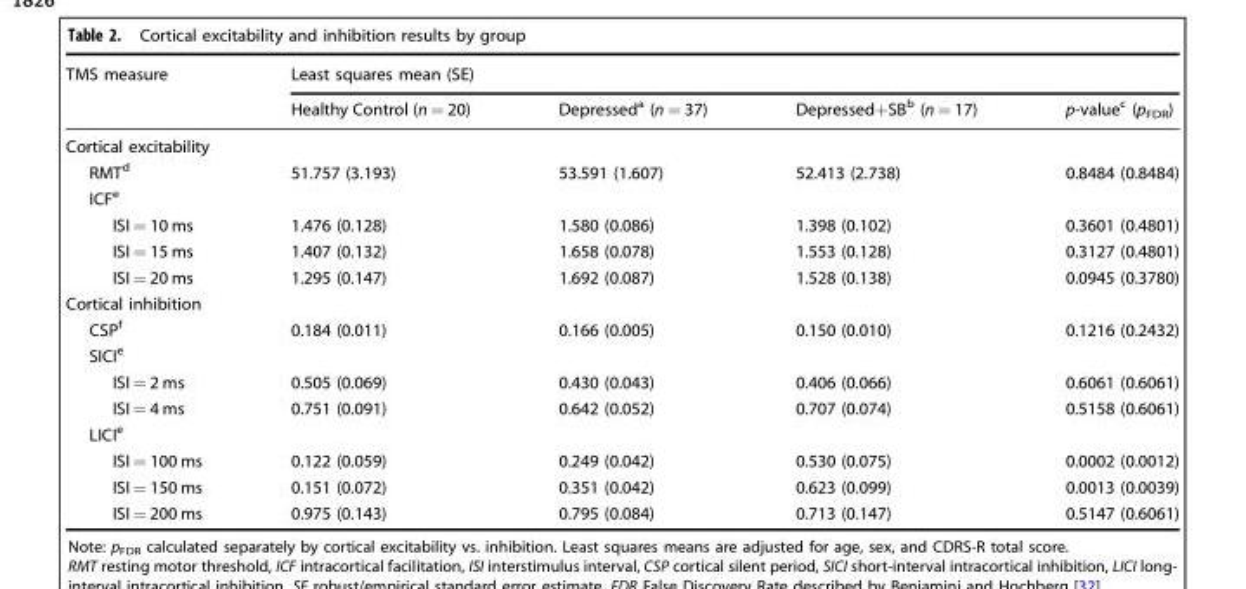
<table><thead><tr><td rowspan="2">TMS measure</td><td colspan="4">Least squares mean (SE)</td></tr><tr><td>Healthy Control (n = 20)</td><td>Depressed<sup>a</sup> (n = 37)</td><td>Depressed+SB<sup>b</sup> (n = 17)</td><td>p-value<sup>c</sup> (p<sub>FDR</sub>)</td></tr></thead><tbody><tr><td colspan="5">Cortical excitability</td></tr><tr><td>RMT<sup>d</sup></td><td>51.757 (3.193)</td><td>53.591 (1.607)</td><td>52.413 (2.738)</td><td>0.8484 (0.8484)</td></tr><tr><td colspan="5">ICF<sup>e</sup></td></tr><tr><td>ISI = 10 ms</td><td>1.476 (0.128)</td><td>1.580 (0.086)</td><td>1.398 (0.102)</td><td>0.3601 (0.4801)</td></tr><tr><td>ISI = 15 ms</td><td>1.407 (0.132)</td><td>1.658 (0.078)</td><td>1.553 (0.128)</td><td>0.3127 (0.4801)</td></tr><tr><td>ISI = 20 ms</td><td>1.295 (0.147)</td><td>1.692 (0.087)</td><td>1.528 (0.138)</td><td>0.0945 (0.3780)</td></tr><tr><td colspan="5">Cortical inhibition</td></tr><tr><td>CSP<sup>f</sup></td><td>0.184 (0.011)</td><td>0.166 (0.005)</td><td>0.150 (0.010)</td><td>0.1216 (0.2432)</td></tr><tr><td colspan="5">SICI<sup>e</sup></td></tr><tr><td>ISI = 2 ms</td><td>0.505 (0.069)</td><td>0.430 (0.043)</td><td>0.406 (0.066)</td><td>0.6061 (0.6061)</td></tr><tr><td>ISI = 4 ms</td><td>0.751 (0.091)</td><td>0.642 (0.052)</td><td>0.707 (0.074)</td><td>0.5158 (0.6061)</td></tr><tr><td colspan="5">LICI<sup>e</sup></td></tr><tr><td>ISI = 100 ms</td><td>0.122 (0.059)</td><td>0.249 (0.042)</td><td>0.530 (0.075)</td><td>0.0002 (0.0012)</td></tr><tr><td>ISI = 150 ms</td><td>0.151 (0.072)</td><td>0.351 (0.042)</td><td>0.623 (0.099)</td><td>0.0013 (0.0039)</td></tr><tr><td>ISI = 200 ms</td><td>0.975 (0.143)</td><td>0.795 (0.084)</td><td>0.713 (0.147)</td><td>0.5147 (0.6061)</td></tr></tbody></table>